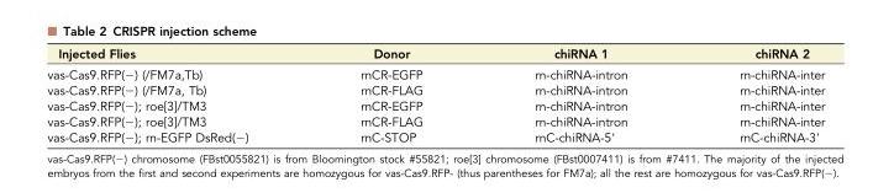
<table><thead><tr><td>Injected Flies</td><td>Donor</td><td>chiRNA 1</td><td>chiRNA 2</td></tr></thead><tbody><tr><td>vas-Cas9.RFP(−) (/FM7a,Tb)</td><td>rnCR-EGFP</td><td>rn-chiRNA-intron</td><td>rn-chiRNA-inter</td></tr><tr><td>vas-Cas9.RFP(−) (/FM7a, Tb)</td><td>rnCR-FLAG</td><td>rn-chiRNA-intron</td><td>rn-chiRNA-inter</td></tr><tr><td>vas-Cas9.RFP(−); roe[3]/TM3</td><td>rnCR-EGFP</td><td>rn-chiRNA-intron</td><td>rn-chiRNA-inter</td></tr><tr><td>vas-Cas9.RFP(−); roe[3]/TM3</td><td>rnCR-FLAG</td><td>rn-chiRNA-intron</td><td>rn-chiRNA-inter</td></tr><tr><td>vas-Cas9.RFP(−); rn-EGFP DsRed(−)</td><td>rnC-STOP</td><td>rnC-chiRNA-5′</td><td>rnC-chiRNA-3′</td></tr></tbody></table>